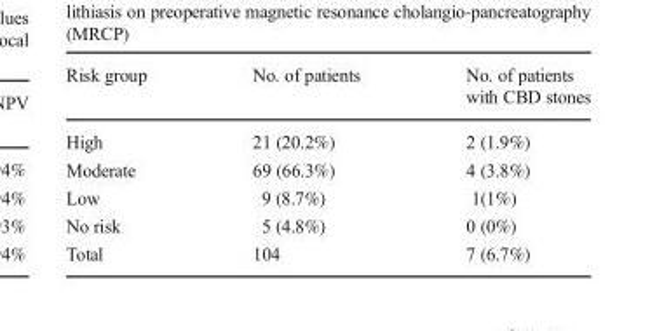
<table><thead><tr><td>Risk group</td><td>No. of patients</td><td>No. of patients with CBD stones</td></tr></thead><tbody><tr><td>High</td><td>21 (20.2%)</td><td>2 (1.9%)</td></tr><tr><td>Moderate</td><td>69 (66.3%)</td><td>4 (3.8%)</td></tr><tr><td>Low</td><td>9 (8.7%)</td><td>1(1%)</td></tr><tr><td>No risk</td><td>5 (4.8%)</td><td>0 (0%)</td></tr><tr><td>Total</td><td>104</td><td>7 (6.7%)</td></tr></tbody></table>